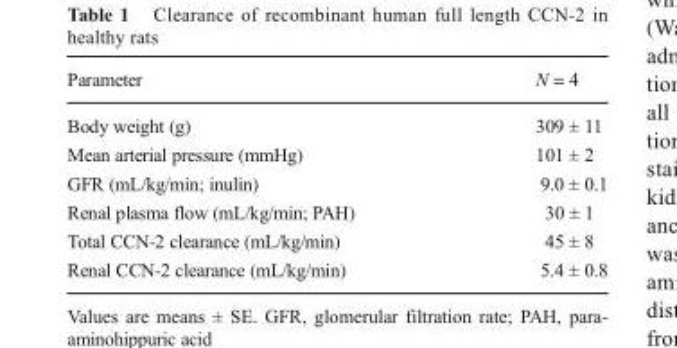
<table><thead><tr><td>Parameter</td><td>N = 4</td></tr></thead><tbody><tr><td>Body weight (g)</td><td>309 ± 11</td></tr><tr><td>Mean arterial pressure (mmHg)</td><td>101 ± 2</td></tr><tr><td>GFR (mL/kg/min; inulin)</td><td>9.0 ± 0.1</td></tr><tr><td>Renal plasma flow (mL/kg/min; PAH)</td><td>30 ± 1</td></tr><tr><td>Total CCN-2 clearance (mL/kg/min)</td><td>45 ± 8</td></tr><tr><td>Renal CCN-2 clearance (mL/kg/min)</td><td>5.4 ± 0.8</td></tr></tbody></table>